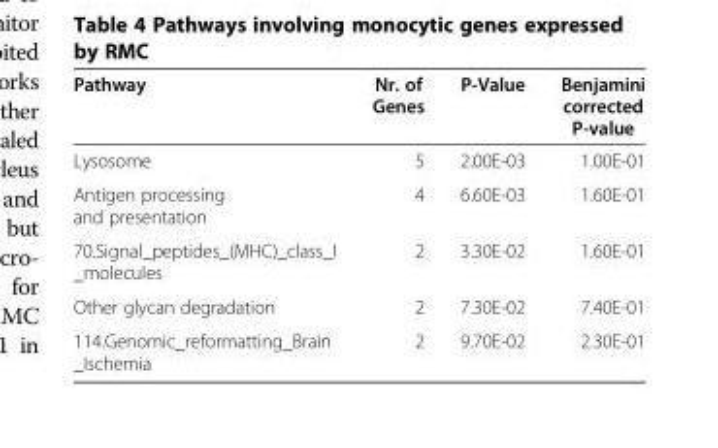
<table><thead><tr><td>Pathway</td><td>Nr. of Genes</td><td>P-Value</td><td>Benjamini corrected P-value</td></tr></thead><tbody><tr><td>Lysosome</td><td>5</td><td>2.00E-03</td><td>1.00E-01</td></tr><tr><td>Antigen processing and presentation</td><td>4</td><td>6.60E-03</td><td>1.60E-01</td></tr><tr><td>70.Signal_peptides_(MHC)_class_I _molecules</td><td>2</td><td>3.30E-02</td><td>1.60E-01</td></tr><tr><td>Other glycan degradation</td><td>2</td><td>7.30E-02</td><td>7.40E-01</td></tr><tr><td>114.Genomic_reformatting_Brain _Ischemia</td><td>2</td><td>9.70E-02</td><td>2.30E-01</td></tr></tbody></table>